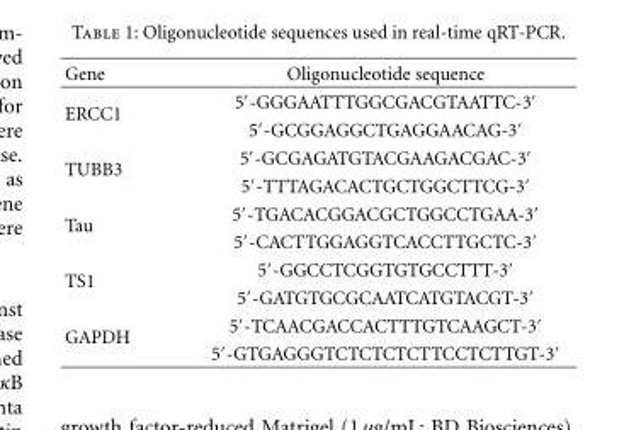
<table><thead><tr><td>Gene</td><td>Oligonucleotide sequence</td></tr></thead><tbody><tr><td rowspan="2">ERCC1</td><td>5′-GGGAATTTGGCGACGTAATTC-3′</td></tr><tr><td>5′-GCGGAGGCTGAGGAACAG-3′</td></tr><tr><td rowspan="2">TUBB3</td><td>5′-GCGAGATGTACGAAGACGAC-3′</td></tr><tr><td>5′-TTTAGACACTGCTGGCTTCG-3′</td></tr><tr><td rowspan="2">Tau</td><td>5′-TGACACGGACGCTGGCCTGAA-3′</td></tr><tr><td>5′-CACTTGGAGGTCACCTTGCTC-3′</td></tr><tr><td rowspan="2">TS1</td><td>5′-GGCCTCGGTGTGCCTTT-3′</td></tr><tr><td>5′-GATGTGCGCAATCATGTACGT-3′</td></tr><tr><td rowspan="2">GAPDH</td><td>5′-TCAACGACCACTTTGTCAAGCT-3′</td></tr><tr><td>5′-GTGAGGGTCTCTCTCTTCCTCTTGT-3′</td></tr></tbody></table>